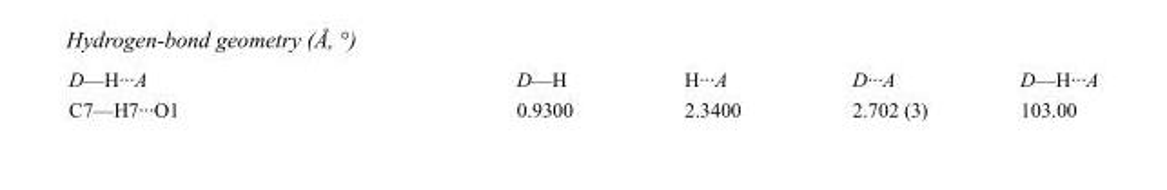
<table><tbody><tr><td>D—H···A</td><td>D—H</td><td>H···A</td><td>D···A</td><td>D—H···A</td></tr><tr><td>C7—H7···O1</td><td>0.9300</td><td>2.3400</td><td>2.702 (3)</td><td>103.00</td></tr></tbody></table>